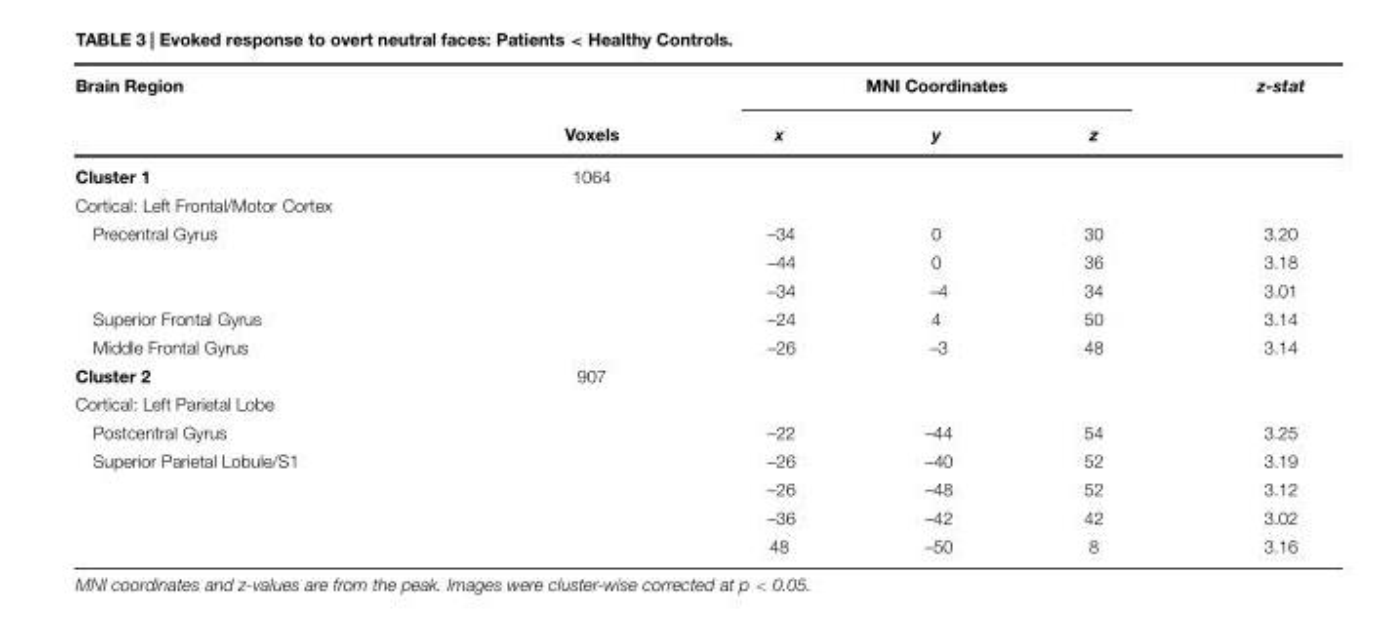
<table><thead><tr><td rowspan="2">Brain Region</td><td rowspan="2">Voxels</td><td colspan="3">MNI Coordinates</td><td rowspan="2">z-stat</td></tr><tr><td>x</td><td>y</td><td>z</td></tr></thead><tbody><tr><td>Cluster 1</td><td>1064</td><td></td><td></td><td></td><td></td></tr><tr><td colspan="6">Cortical: Left Frontal/Motor Cortex</td></tr><tr><td rowspan="3">Precentral Gyrus</td><td></td><td>–34</td><td>0</td><td>30</td><td>3.20</td></tr><tr><td></td><td>–44</td><td>0</td><td>36</td><td>3.18</td></tr><tr><td></td><td>–34</td><td>–4</td><td>34</td><td>3.01</td></tr><tr><td>Superior Frontal Gyrus</td><td></td><td>–24</td><td>4</td><td>50</td><td>3.14</td></tr><tr><td>Middle Frontal Gyrus</td><td></td><td>–26</td><td>–3</td><td>48</td><td>3.14</td></tr><tr><td>Cluster 2</td><td>907</td><td></td><td></td><td></td><td></td></tr><tr><td colspan="6">Cortical: Left Parietal Lobe</td></tr><tr><td>Postcentral Gyrus</td><td></td><td>–22</td><td>–44</td><td>54</td><td>3.25</td></tr><tr><td rowspan="4">Superior Parietal Lobule/S1</td><td></td><td>–26</td><td>–40</td><td>52</td><td>3.19</td></tr><tr><td></td><td>–26</td><td>–48</td><td>52</td><td>3.12</td></tr><tr><td></td><td>–36</td><td>–42</td><td>42</td><td>3.02</td></tr><tr><td></td><td>48</td><td>–50</td><td>8</td><td>3.16</td></tr></tbody></table>